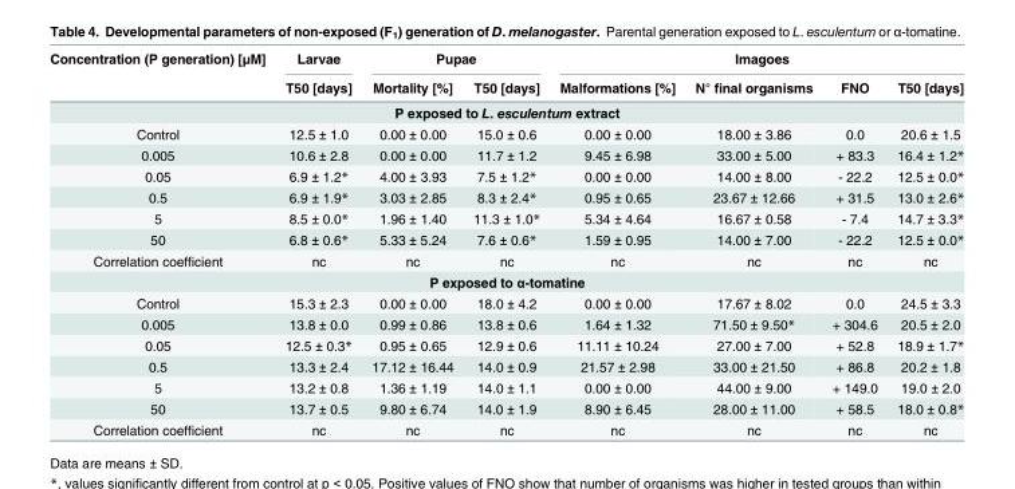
<table><thead><tr><td rowspan="2">Concentration (P generation) [μM]</td><td rowspan="2">Larvae T50 [days]</td><td colspan="2">Pupae</td><td colspan="4">Imagoes</td></tr><tr><td>Mortality [%]</td><td>T50 [days]</td><td>Malformations [%]</td><td>N° final organisms</td><td>FNO</td><td>T50 [days]</td></tr></thead><tbody><tr><td colspan="8">P exposed to L. esculentum extract</td></tr><tr><td>Control</td><td>12.5 ± 1.0</td><td>0.00 ± 0.00</td><td>15.0 ± 0.6</td><td>0.00 ± 0.00</td><td>18.00 ± 3.86</td><td>0.0</td><td>20.6 ± 1.5</td></tr><tr><td>0.005</td><td>10.6 ± 2.8</td><td>0.00 ± 0.00</td><td>11.7 ± 1.2</td><td>9.45 ± 6.98</td><td>33.00 ± 5.00</td><td>+ 83.3</td><td>16.4 ± 1.2*</td></tr><tr><td>0.05</td><td>6.9 ± 1.2*</td><td>4.00 ± 3.93</td><td>7.5 ± 1.2*</td><td>0.00 ± 0.00</td><td>14.00 ± 8.00</td><td>- 22.2</td><td>12.5 ± 0.0*</td></tr><tr><td>0.5</td><td>6.9 ± 1.9*</td><td>3.03 ± 2.85</td><td>8.3 ± 2.4*</td><td>0.95 ± 0.65</td><td>23.67 ± 12.66</td><td>+ 31.5</td><td>13.0 ± 2.6*</td></tr><tr><td>5</td><td>8.5 ± 0.0*</td><td>1.96 ± 1.40</td><td>11.3 ± 1.0*</td><td>5.34 ± 4.64</td><td>16.67 ± 0.58</td><td>- 7.4</td><td>14.7 ± 3.3*</td></tr><tr><td>50</td><td>6.8 ± 0.6*</td><td>5.33 ± 5.24</td><td>7.6 ± 0.6*</td><td>1.59 ± 0.95</td><td>14.00 ± 7.00</td><td>- 22.2</td><td>12.5 ± 0.0*</td></tr><tr><td>Correlation coefficient</td><td>nc</td><td>nc</td><td>nc</td><td>nc</td><td>nc</td><td>nc</td><td>nc</td></tr><tr><td colspan="8">P exposed to α-tomatine</td></tr><tr><td>Control</td><td>15.3 ± 2.3</td><td>0.00 ± 0.00</td><td>18.0 ± 4.2</td><td>0.00 ± 0.00</td><td>17.67 ± 8.02</td><td>0.0</td><td>24.5 ± 3.3</td></tr><tr><td>0.005</td><td>13.8 ± 0.0</td><td>0.99 ± 0.86</td><td>13.8 ± 0.6</td><td>1.64 ± 1.32</td><td>71.50 ± 9.50*</td><td>+ 304.6</td><td>20.5 ± 2.0</td></tr><tr><td>0.05</td><td>12.5 ± 0.3*</td><td>0.95 ± 0.65</td><td>12.9 ± 0.6</td><td>11.11 ± 10.24</td><td>27.00 ± 7.00</td><td>+ 52.8</td><td>18.9 ± 1.7*</td></tr><tr><td>0.5</td><td>13.3 ± 2.4</td><td>17.12 ± 16.44</td><td>14.0 ± 0.9</td><td>21.57 ± 2.98</td><td>33.00 ± 21.50</td><td>+ 86.8</td><td>20.2 ± 1.8</td></tr><tr><td>5</td><td>13.2 ± 0.8</td><td>1.36 ± 1.19</td><td>14.0 ± 1.1</td><td>0.00 ± 0.00</td><td>44.00 ± 9.00</td><td>+ 149.0</td><td>19.0 ± 2.0</td></tr><tr><td>50</td><td>13.7 ± 0.5</td><td>9.80 ± 6.74</td><td>14.0 ± 1.9</td><td>8.90 ± 6.45</td><td>28.00 ± 11.00</td><td>+ 58.5</td><td>18.0 ± 0.8*</td></tr><tr><td>Correlation coefficient</td><td>nc</td><td>nc</td><td>nc</td><td>nc</td><td>nc</td><td>nc</td><td>nc</td></tr></tbody></table>